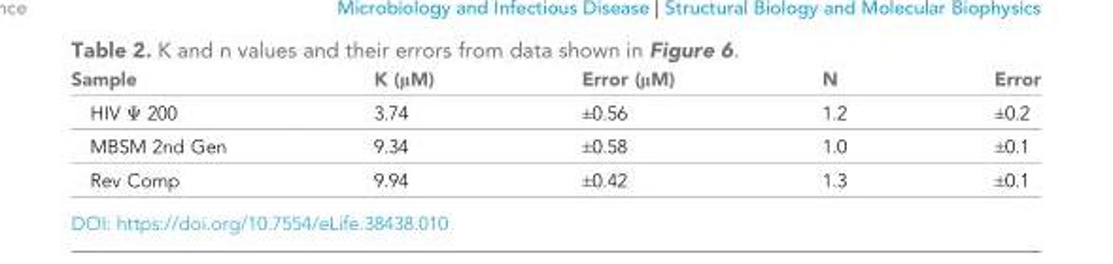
<table><thead><tr><td>Sample</td><td>K (μM)</td><td>Error (μM)</td><td>N</td><td>Error</td></tr></thead><tbody><tr><td>HIV Ψ 200</td><td>3.74</td><td>±0.56</td><td>1.2</td><td>±0.2</td></tr><tr><td>MBSM 2nd Gen</td><td>9.34</td><td>±0.58</td><td>1.0</td><td>±0.1</td></tr><tr><td>Rev Comp</td><td>9.94</td><td>±0.42</td><td>1.3</td><td>±0.1</td></tr></tbody></table>